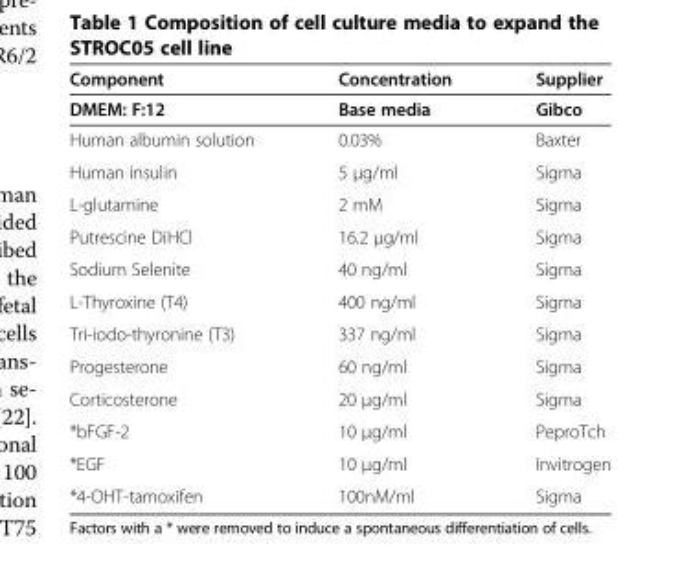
<table><thead><tr><td rowspan="2">Component DMEM: F:12</td><td rowspan="2">Concentration Base media</td><td rowspan="2">Supplier Gibco</td></tr><tr></tr></thead><tbody><tr><td>Human albumin solution</td><td>0.03%</td><td>Baxter</td></tr><tr><td>Human insulin</td><td>5 μg/ml</td><td>Sigma</td></tr><tr><td>L-glutamine</td><td>2 mM</td><td>Sigma</td></tr><tr><td>Putrescine DiHCl</td><td>16.2 μg/ml</td><td>Sigma</td></tr><tr><td>Sodium Selenite</td><td>40 ng/ml</td><td>Sigma</td></tr><tr><td>L-Thyroxine (T4)</td><td>400 ng/ml</td><td>Sigma</td></tr><tr><td>Tri-iodo-thyronine (T3)</td><td>337 ng/ml</td><td>Sigma</td></tr><tr><td>Progesterone</td><td>60 ng/ml</td><td>Sigma</td></tr><tr><td>Corticosterone</td><td>20 μg/ml</td><td>Sigma</td></tr><tr><td>*bFGF-2</td><td>10 μg/ml</td><td>PeproTch</td></tr><tr><td>*EGF</td><td>10 μg/ml</td><td>Invitrogen</td></tr><tr><td>*4-OHT-tamoxifen</td><td>100nM/ml</td><td>Sigma</td></tr></tbody></table>